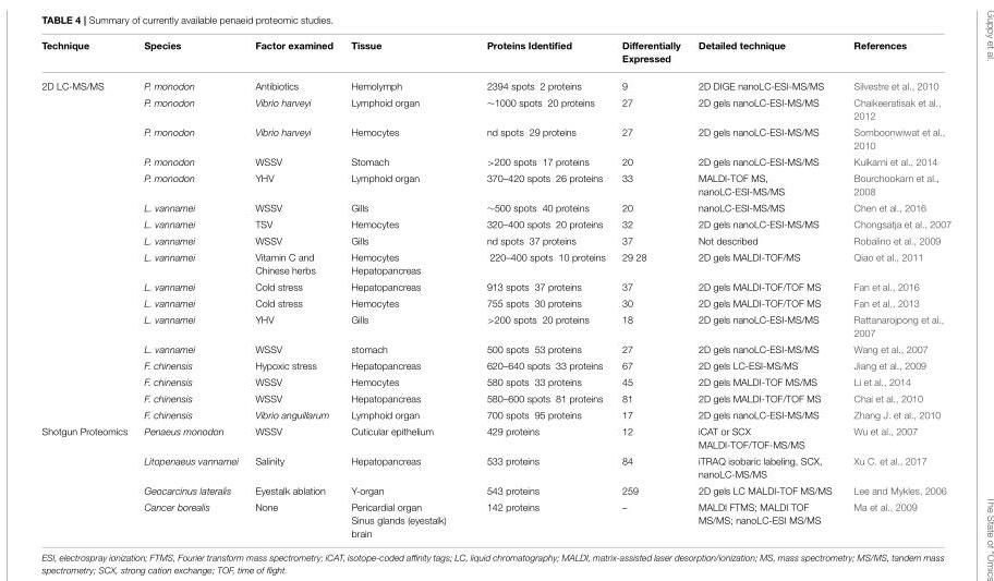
<table><thead><tr><td>Technique</td><td>Species</td><td>Factor examined</td><td>Tissue</td><td>Proteins Identified</td><td>Differentially Expressed</td><td>Detailed technique</td><td>References</td></tr></thead><tbody><tr><td rowspan="17">2D LC-MS/MS</td><td>P. monodon</td><td>Antibiotics</td><td>Hemolymph</td><td>2394 spots 2 proteins</td><td>9</td><td>2D DIGE nanoLC-ESI-MS/MS</td><td>Silvestre et al., 2010</td></tr><tr><td>P. monodon</td><td>Vibrio harveyi</td><td>Lymphoid organ</td><td>∼1000 spots 20 proteins</td><td>27</td><td>2D gels nanoLC-ESI-MS/MS</td><td>Chaikeeratisak et al., 2012</td></tr><tr><td>P. monodon</td><td>Vibrio harveyi</td><td>Hemocytes</td><td>nd spots 29 proteins</td><td>27</td><td>2D gels nanoLC-ESI-MS/MS</td><td>Somboonwiwat et al., 2010</td></tr><tr><td>P. monodon</td><td>WSSV</td><td>Stomach</td><td>&gt;200 spots 17 proteins</td><td>20</td><td>2D gels nanoLC-ESI-MS/MS</td><td>Kulkarni et al., 2014</td></tr><tr><td>P. monodon</td><td>YHV</td><td>Lymphoid organ</td><td>370–420 spots 26 proteins</td><td>33</td><td>MALDI-TOF MS, nanoLC-ESI-MS/MS</td><td>Bourchookarn et al., 2008</td></tr><tr><td>L. vannamei</td><td>WSSV</td><td>Gills</td><td>∼500 spots 40 proteins</td><td>20</td><td>nanoLC-ESI-MS/MS</td><td>Chen et al., 2016</td></tr><tr><td>L. vannamei</td><td>TSV</td><td>Hemocytes</td><td>320–400 spots 20 proteins</td><td>32</td><td>2D gels nanoLC-ESI-MS/MS</td><td>Chongsatja et al., 2007</td></tr><tr><td>L. vannamei</td><td>WSSV</td><td>Gills</td><td>nd spots 37 proteins</td><td>37</td><td>Not described</td><td>Robalino et al., 2009</td></tr><tr><td>L. vannamei</td><td>Vitamin C and Chinese herbs</td><td>Hemocytes Hepatopancreas</td><td>220–400 spots 10 proteins</td><td>29 28</td><td>2D gels MALDI-TOF/MS</td><td>Qiao et al., 2011</td></tr><tr><td>L. vannamei</td><td>Cold stress</td><td>Hepatopancreas</td><td>913 spots 37 proteins</td><td>37</td><td>2D gels MALDI-TOF/TOF MS</td><td>Fan et al., 2016</td></tr><tr><td>L. vannamei</td><td>Cold stress</td><td>Hemocytes</td><td>755 spots 30 proteins</td><td>30</td><td>2D gels MALDI-TOF/TOF MS</td><td>Fan et al., 2013</td></tr><tr><td>L. vannamei</td><td>YHV</td><td>Gills</td><td>&gt;200 spots 20 proteins</td><td>18</td><td>2D gels nanoLC-ESI-MS/MS</td><td>Rattanarojpong et al., 2007</td></tr><tr><td>L. vannamei</td><td>WSSV</td><td>stomach</td><td>500 spots 53 proteins</td><td>27</td><td>2D gels nanoLC-ESI-MS/MS</td><td>Wang et al., 2007</td></tr><tr><td>F. chinensis</td><td>Hypoxic stress</td><td>Hepatopancreas</td><td>620–640 spots 33 proteins</td><td>67</td><td>2D gels LC-ESI-MS/MS</td><td>Jiang et al., 2009</td></tr><tr><td>F. chinensis</td><td>WSSV</td><td>Hemocytes</td><td>580 spots 33 proteins</td><td>45</td><td>2D gels MALDI-TOF MS/MS</td><td>Li et al., 2014</td></tr><tr><td>F. chinensis</td><td>WSSV</td><td>Hepatopancreas</td><td>580–600 spots 81 proteins</td><td>81</td><td>2D gels MALDI-TOF/TOF MS</td><td>Chai et al., 2010</td></tr><tr><td>F. chinensis</td><td>Vibrio anguillarum</td><td>Lymphoid organ</td><td>700 spots 95 proteins</td><td>17</td><td>2D gels nanoLC-ESI-MS/MS</td><td>Zhang J. et al., 2010</td></tr><tr><td rowspan="4">Shotgun Proteomics</td><td>Penaeus monodon</td><td>WSSV</td><td>Cuticular epithelium</td><td>429 proteins</td><td>12</td><td>iCAT or SCX MALDI-TOF/TOF-MS/MS</td><td>Wu et al., 2007</td></tr><tr><td>Litopenaeus vannamei</td><td>Salinity</td><td>Hepatopancreas</td><td>533 proteins</td><td>84</td><td>iTRAQ isobaric labeling, SCX, nanoLC-MS/MS</td><td>Xu C. et al., 2017</td></tr><tr><td>Geocarcinus lateralis</td><td>Eyestalk ablation</td><td>Y-organ</td><td>543 proteins</td><td>259</td><td>2D gels LC MALDI-TOF MS/MS</td><td>Lee and Mykles, 2006</td></tr><tr><td>Cancer borealis</td><td>None</td><td>Pericardial organ Sinus glands (eyestalk) brain</td><td>142 proteins</td><td>–</td><td>MALDI FTMS; MALDI TOF MS/MS; nanoLC-ESI MS/MS</td><td>Ma et al., 2009</td></tr></tbody></table>